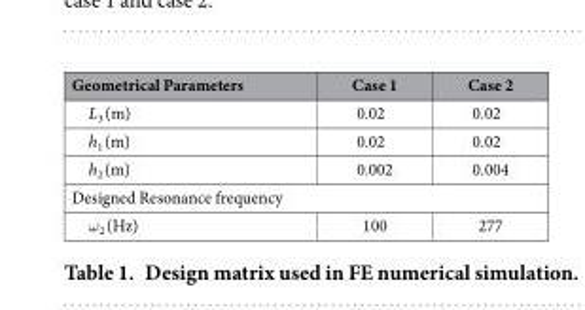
<table><thead><tr><td>Geometrical Parameters</td><td>Case 1</td><td>Case 2</td></tr></thead><tbody><tr><td>L<sub>3</sub> (m)</td><td>0.02</td><td>0.02</td></tr><tr><td>h<sub>1</sub> (m)</td><td>0.02</td><td>0.02</td></tr><tr><td>h<sub>2</sub> (m)</td><td>0.002</td><td>0.004</td></tr><tr><td colspan="3">Designed Resonance frequency</td></tr><tr><td>ω<sub>2</sub> (Hz)</td><td>100</td><td>277</td></tr></tbody></table>